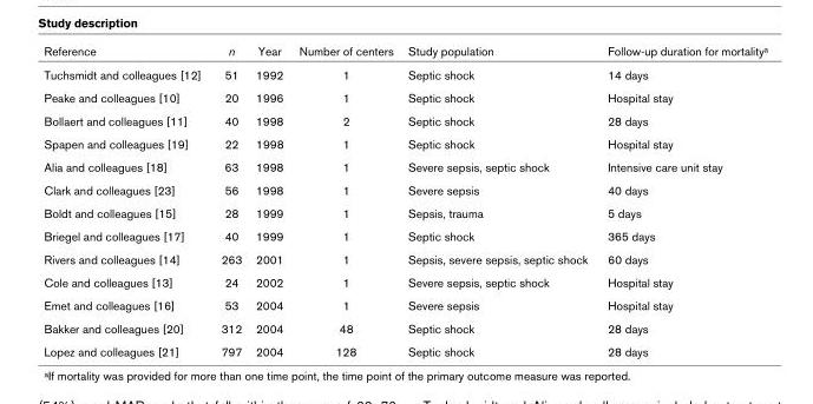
<table><thead><tr><td>Reference</td><td>n</td><td>Year</td><td>Number of centers</td><td>Study population</td><td>Follow-up duration for mortality<sup>a</sup></td></tr></thead><tbody><tr><td>Tuchsmidt and colleagues [12]</td><td>51</td><td>1992</td><td>1</td><td>Septic shock</td><td>14 days</td></tr><tr><td>Peake and colleagues [10]</td><td>20</td><td>1996</td><td>1</td><td>Septic shock</td><td>Hospital stay</td></tr><tr><td>Bollaert and colleagues [11]</td><td>40</td><td>1998</td><td>2</td><td>Septic shock</td><td>28 days</td></tr><tr><td>Spapen and colleagues [19]</td><td>22</td><td>1998</td><td>1</td><td>Septic shock</td><td>Hospital stay</td></tr><tr><td>Alia and colleagues [18]</td><td>63</td><td>1998</td><td>1</td><td>Severe sepsis, septic shock</td><td>Intensive care unit stay</td></tr><tr><td>Clark and colleagues [23]</td><td>56</td><td>1998</td><td>1</td><td>Severe sepsis</td><td>40 days</td></tr><tr><td>Boldt and colleagues [15]</td><td>28</td><td>1999</td><td>1</td><td>Sepsis, trauma</td><td>5 days</td></tr><tr><td>Briegel and colleagues [17]</td><td>40</td><td>1999</td><td>1</td><td>Septic shock</td><td>365 days</td></tr><tr><td>Rivers and colleagues [14]</td><td>263</td><td>2001</td><td>1</td><td>Sepsis, severe sepsis, septic shock</td><td>60 days</td></tr><tr><td>Cole and colleagues [13]</td><td>24</td><td>2002</td><td>1</td><td>Severe sepsis, septic shock</td><td>Hospital stay</td></tr><tr><td>Emet and colleagues [16]</td><td>53</td><td>2004</td><td>1</td><td>Severe sepsis</td><td>Hospital stay</td></tr><tr><td>Bakker and colleagues [20]</td><td>312</td><td>2004</td><td>48</td><td>Septic shock</td><td>28 days</td></tr><tr><td>Lopez and colleagues [21]</td><td>797</td><td>2004</td><td>128</td><td>Septic shock</td><td>28 days</td></tr></tbody></table>